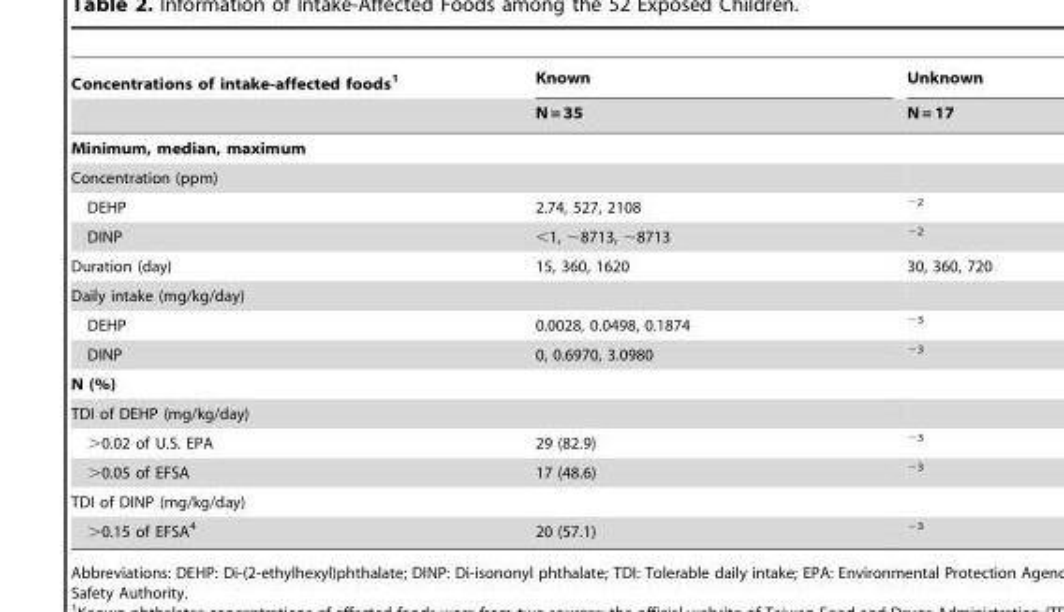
<table><thead><tr><td rowspan="2">Concentrations of intake-affected foods<sup>1</sup></td><td rowspan="2">Known N = 35</td><td rowspan="2">Unknown N = 17</td></tr><tr></tr></thead><tbody><tr><td colspan="3">Minimum, median, maximum</td></tr><tr><td colspan="3">Concentration (ppm)</td></tr><tr><td>DEHP</td><td>2.74, 527, 2108</td><td><sup>−2</sup></td></tr><tr><td>DINP</td><td>&lt;1, ∼8713, ∼8713</td><td><sup>−2</sup></td></tr><tr><td>Duration (day)</td><td>15, 360, 1620</td><td>30, 360, 720</td></tr><tr><td colspan="3">Daily intake (mg/kg/day)</td></tr><tr><td>DEHP</td><td>0.0028, 0.0498, 0.1874</td><td><sup>−3</sup></td></tr><tr><td>DINP</td><td>0, 0.6970, 3.0980</td><td><sup>−3</sup></td></tr><tr><td colspan="3">N (%)</td></tr><tr><td colspan="3">TDI of DEHP (mg/kg/day)</td></tr><tr><td>&gt;0.02 of U.S. EPA</td><td>29 (82.9)</td><td><sup>−3</sup></td></tr><tr><td>&gt;0.05 of EFSA</td><td>17 (48.6)</td><td><sup>−3</sup></td></tr><tr><td colspan="3">TDI of DINP (mg/kg/day)</td></tr><tr><td>&gt;0.15 of EFSA<sup>4</sup></td><td>20 (57.1)</td><td><sup>−3</sup></td></tr></tbody></table>